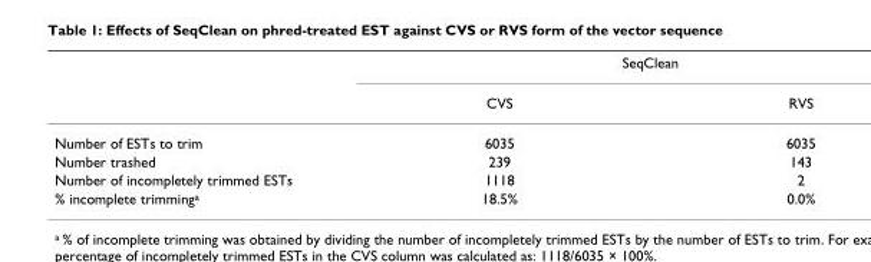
<table><thead><tr><td rowspan="2"></td><td colspan="2">SeqClean</td></tr><tr><td>CVS</td><td>RVS</td></tr></thead><tbody><tr><td>Number of ESTs to trim</td><td>6035</td><td>6035</td></tr><tr><td>Number trashed</td><td>239</td><td>143</td></tr><tr><td>Number of incompletely trimmed ESTs</td><td>1118</td><td>2</td></tr><tr><td>% incomplete trimming<sup>a</sup></td><td>18.5%</td><td>0.0%</td></tr></tbody></table>